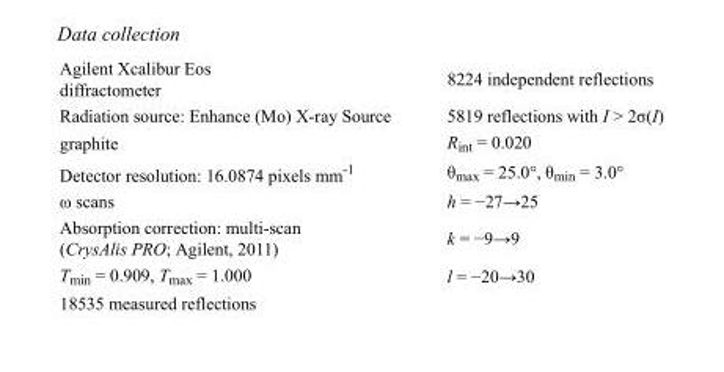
<table><tbody><tr><td>Agilent Xcalibur Eos diffractometer</td><td>8224 independent reflections</td></tr><tr><td>Radiation source: Enhance (Mo) X-ray Source</td><td>5819 reflections with I &gt; 2σ(I)</td></tr><tr><td>graphite</td><td>R<sub>int</sub> = 0.020</td></tr><tr><td>Detector resolution: 16.0874 pixels mm<sup>-1</sup></td><td>θ<sub>max</sub> = 25.0°, θ<sub>min</sub> = 3.0°</td></tr><tr><td>ω scans</td><td>h = −27→25</td></tr><tr><td>Absorption correction: multi-scan (CrysAlis PRO; Agilent, 2011)</td><td>k = −9→9</td></tr><tr><td>T<sub>min</sub> = 0.909, T<sub>max</sub> = 1.000</td><td>l = −20→30</td></tr><tr><td>18535 measured reflections</td><td></td></tr></tbody></table>